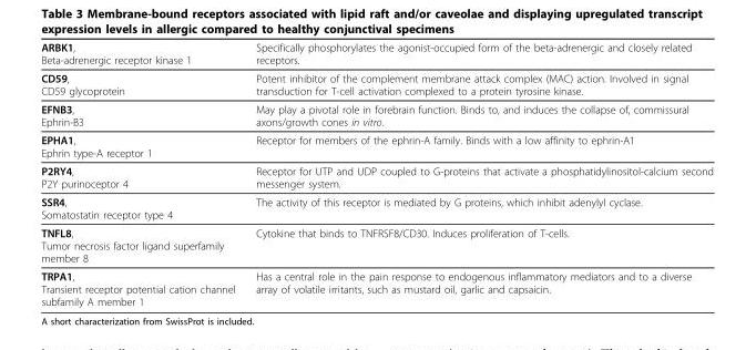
<table><thead><tr><td>ARBK1, Beta-adrenergic receptor kinase 1</td><td>Specifically phosphorylates the agonist-occupied form of the beta-adrenergic and closely related receptors.</td></tr></thead><tbody><tr><td>CD59, CD59 glycoprotein</td><td>Potent inhibitor of the complement membrane attack complex (MAC) action. Involved in signal transduction for T-cell activation complexed to a protein tyrosine kinase.</td></tr><tr><td>EFNB3, Ephrin-B3</td><td>May play a pivotal role in forebrain function. Binds to, and induces the collapse of, commissural axons/growth cones in vitro.</td></tr><tr><td>EPHA1, Ephrin type-A receptor 1</td><td>Receptor for members of the ephrin-A family. Binds with a low affinity to ephrin-A1</td></tr><tr><td>P2RY4, P2Y purinoceptor 4</td><td>Receptor for UTP and UDP coupled to G-proteins that activate a phosphatidylinositol-calcium second messenger system.</td></tr><tr><td>SSR4, Somatostatin receptor type 4</td><td>The activity of this receptor is mediated by G proteins, which inhibit adenylyl cyclase.</td></tr><tr><td>TNFL8, Tumor necrosis factor ligand superfamily member 8</td><td>Cytokine that binds to TNFRSF8/CD30. Induces proliferation of T-cells.</td></tr><tr><td>TRPA1, Transient receptor potential cation channel subfamily A member 1</td><td>Has a central role in the pain response to endogenous inflammatory mediators and to a diverse array of volatile irritants, such as mustard oil, garlic and capsaicin.</td></tr></tbody></table>